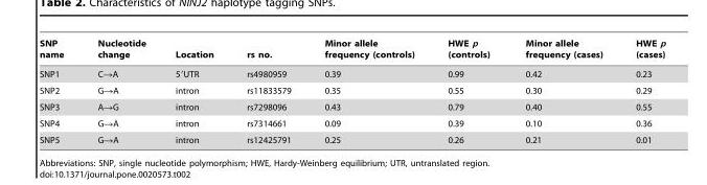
<table><thead><tr><td>SNP name</td><td>Nucleotide change</td><td>Location</td><td>rs no.</td><td>Minor allele frequency (controls)</td><td>HWE p (controls)</td><td>Minor allele frequency (cases)</td><td>HWE p (cases)</td></tr></thead><tbody><tr><td>SNP1</td><td>C→A</td><td>5′UTR</td><td>rs4980959</td><td>0.39</td><td>0.99</td><td>0.42</td><td>0.23</td></tr><tr><td>SNP2</td><td>G→A</td><td>intron</td><td>rs11833579</td><td>0.35</td><td>0.55</td><td>0.30</td><td>0.29</td></tr><tr><td>SNP3</td><td>A→G</td><td>intron</td><td>rs7298096</td><td>0.43</td><td>0.79</td><td>0.40</td><td>0.55</td></tr><tr><td>SNP4</td><td>G→A</td><td>intron</td><td>rs7314661</td><td>0.09</td><td>0.39</td><td>0.10</td><td>0.36</td></tr><tr><td>SNP5</td><td>G→A</td><td>intron</td><td>rs12425791</td><td>0.25</td><td>0.26</td><td>0.21</td><td>0.01</td></tr></tbody></table>